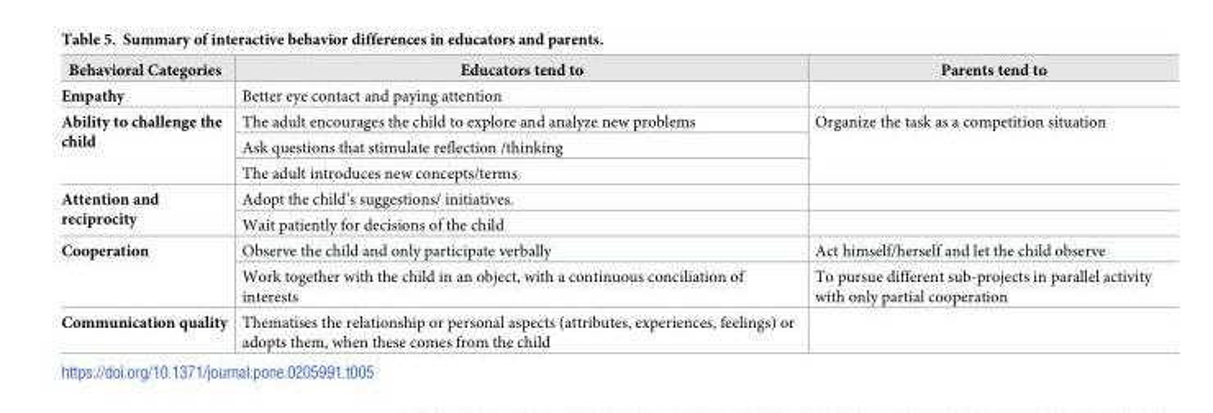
<table><thead><tr><td>Behavioral Categories</td><td>Educators tend to</td><td>Parents tend to</td></tr></thead><tbody><tr><td>Empathy</td><td>Better eye contact and paying attention</td><td></td></tr><tr><td rowspan="3">Ability to challenge the child</td><td>The adult encourages the child to explore and analyze new problems</td><td rowspan="3">Organize the task as a competition situation</td></tr><tr><td>Ask questions that stimulate reflection /thinking</td></tr><tr><td>The adult introduces new concepts/terms</td></tr><tr><td rowspan="2">Attention and reciprocity</td><td>Adopt the child’s suggestions/ initiatives.</td><td></td></tr><tr><td>Wait patiently for decisions of the child</td><td></td></tr><tr><td rowspan="2">Cooperation</td><td>Observe the child and only participate verbally</td><td>Act himself/herself and let the child observe</td></tr><tr><td>Work together with the child in an object, with a continuous conciliation of interests</td><td>To pursue different sub-projects in parallel activity with only partial cooperation</td></tr><tr><td>Communication quality</td><td>Thematises the relationship or personal aspects (attributes, experiences, feelings) or adopts them, when these comes from the child</td><td></td></tr></tbody></table>